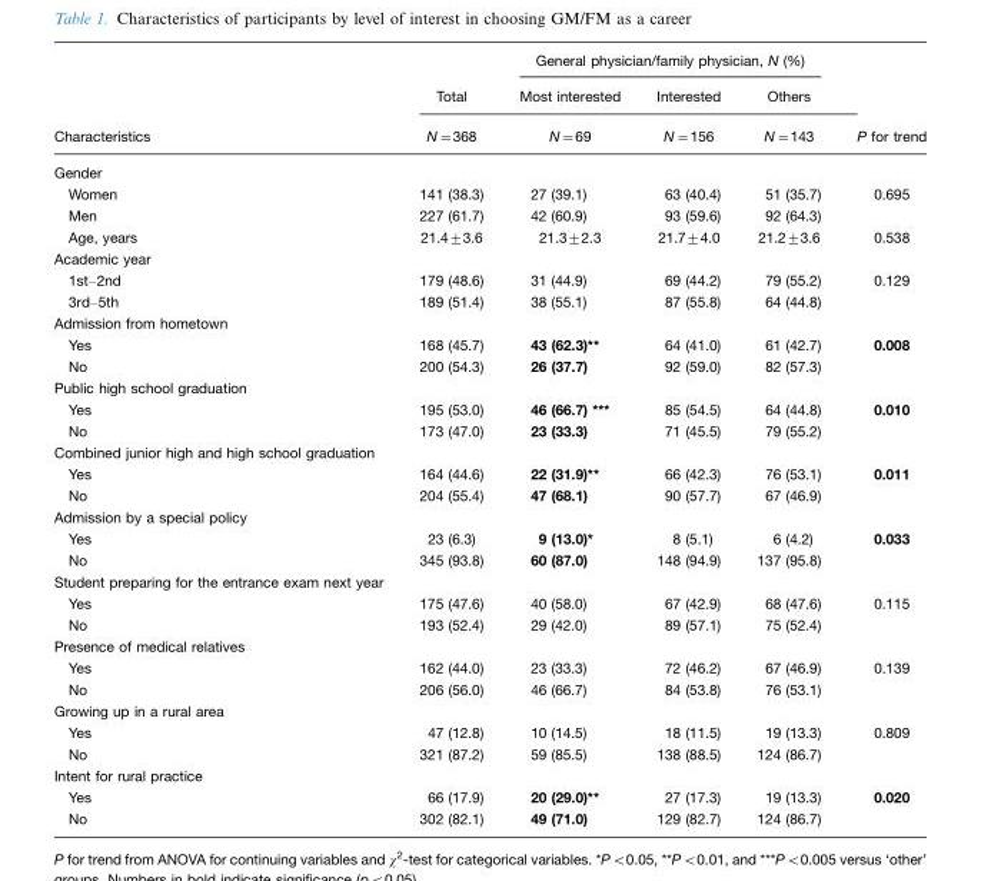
<table><thead><tr><td rowspan="3">Characteristics</td><td rowspan="3">Total N=368</td><td colspan="3">General physician/family physician, N (%)</td><td rowspan="3">P for trend</td></tr><tr><td rowspan="2">Most interested N=69</td><td rowspan="2">Interested N=156</td><td rowspan="2">Others N=143</td></tr><tr></tr></thead><tbody><tr><td colspan="6">Gender</td></tr><tr><td>Women</td><td>141 (38.3)</td><td>27 (39.1)</td><td>63 (40.4)</td><td>51 (35.7)</td><td>0.695</td></tr><tr><td>Men</td><td>227 (61.7)</td><td>42 (60.9)</td><td>93 (59.6)</td><td>92 (64.3)</td><td></td></tr><tr><td>Age, years</td><td>21.4±3.6</td><td>21.3±2.3</td><td>21.7±4.0</td><td>21.2±3.6</td><td>0.538</td></tr><tr><td colspan="6">Academic year</td></tr><tr><td>1st–2nd</td><td>179 (48.6)</td><td>31 (44.9)</td><td>69 (44.2)</td><td>79 (55.2)</td><td>0.129</td></tr><tr><td>3rd–5th</td><td>189 (51.4)</td><td>38 (55.1)</td><td>87 (55.8)</td><td>64 (44.8)</td><td></td></tr><tr><td colspan="6">Admission from hometown</td></tr><tr><td>Yes</td><td>168 (45.7)</td><td>43 (62.3)**</td><td>64 (41.0)</td><td>61 (42.7)</td><td>0.008</td></tr><tr><td>No</td><td>200 (54.3)</td><td>26 (37.7)</td><td>92 (59.0)</td><td>82 (57.3)</td><td></td></tr><tr><td colspan="6">Public high school graduation</td></tr><tr><td>Yes</td><td>195 (53.0)</td><td>46 (66.7) ***</td><td>85 (54.5)</td><td>64 (44.8)</td><td>0.010</td></tr><tr><td>No</td><td>173 (47.0)</td><td>23 (33.3)</td><td>71 (45.5)</td><td>79 (55.2)</td><td></td></tr><tr><td colspan="6">Combined junior high and high school graduation</td></tr><tr><td>Yes</td><td>164 (44.6)</td><td>22 (31.9)**</td><td>66 (42.3)</td><td>76 (53.1)</td><td>0.011</td></tr><tr><td>No</td><td>204 (55.4)</td><td>47 (68.1)</td><td>90 (57.7)</td><td>67 (46.9)</td><td></td></tr><tr><td colspan="6">Admission by a special policy</td></tr><tr><td>Yes</td><td>23 (6.3)</td><td>9 (13.0)*</td><td>8 (5.1)</td><td>6 (4.2)</td><td>0.033</td></tr><tr><td>No</td><td>345 (93.8)</td><td>60 (87.0)</td><td>148 (94.9)</td><td>137 (95.8)</td><td></td></tr><tr><td colspan="6">Student preparing for the entrance exam next year</td></tr><tr><td>Yes</td><td>175 (47.6)</td><td>40 (58.0)</td><td>67 (42.9)</td><td>68 (47.6)</td><td>0.115</td></tr><tr><td>No</td><td>193 (52.4)</td><td>29 (42.0)</td><td>89 (57.1)</td><td>75 (52.4)</td><td></td></tr><tr><td colspan="6">Presence of medical relatives</td></tr><tr><td>Yes</td><td>162 (44.0)</td><td>23 (33.3)</td><td>72 (46.2)</td><td>67 (46.9)</td><td>0.139</td></tr><tr><td>No</td><td>206 (56.0)</td><td>46 (66.7)</td><td>84 (53.8)</td><td>76 (53.1)</td><td></td></tr><tr><td colspan="6">Growing up in a rural area</td></tr><tr><td>Yes</td><td>47 (12.8)</td><td>10 (14.5)</td><td>18 (11.5)</td><td>19 (13.3)</td><td>0.809</td></tr><tr><td>No</td><td>321 (87.2)</td><td>59 (85.5)</td><td>138 (88.5)</td><td>124 (86.7)</td><td></td></tr><tr><td colspan="6">Intent for rural practice</td></tr><tr><td>Yes</td><td>66 (17.9)</td><td>20 (29.0)**</td><td>27 (17.3)</td><td>19 (13.3)</td><td>0.020</td></tr><tr><td>No</td><td>302 (82.1)</td><td>49 (71.0)</td><td>129 (82.7)</td><td>124 (86.7)</td><td></td></tr></tbody></table>